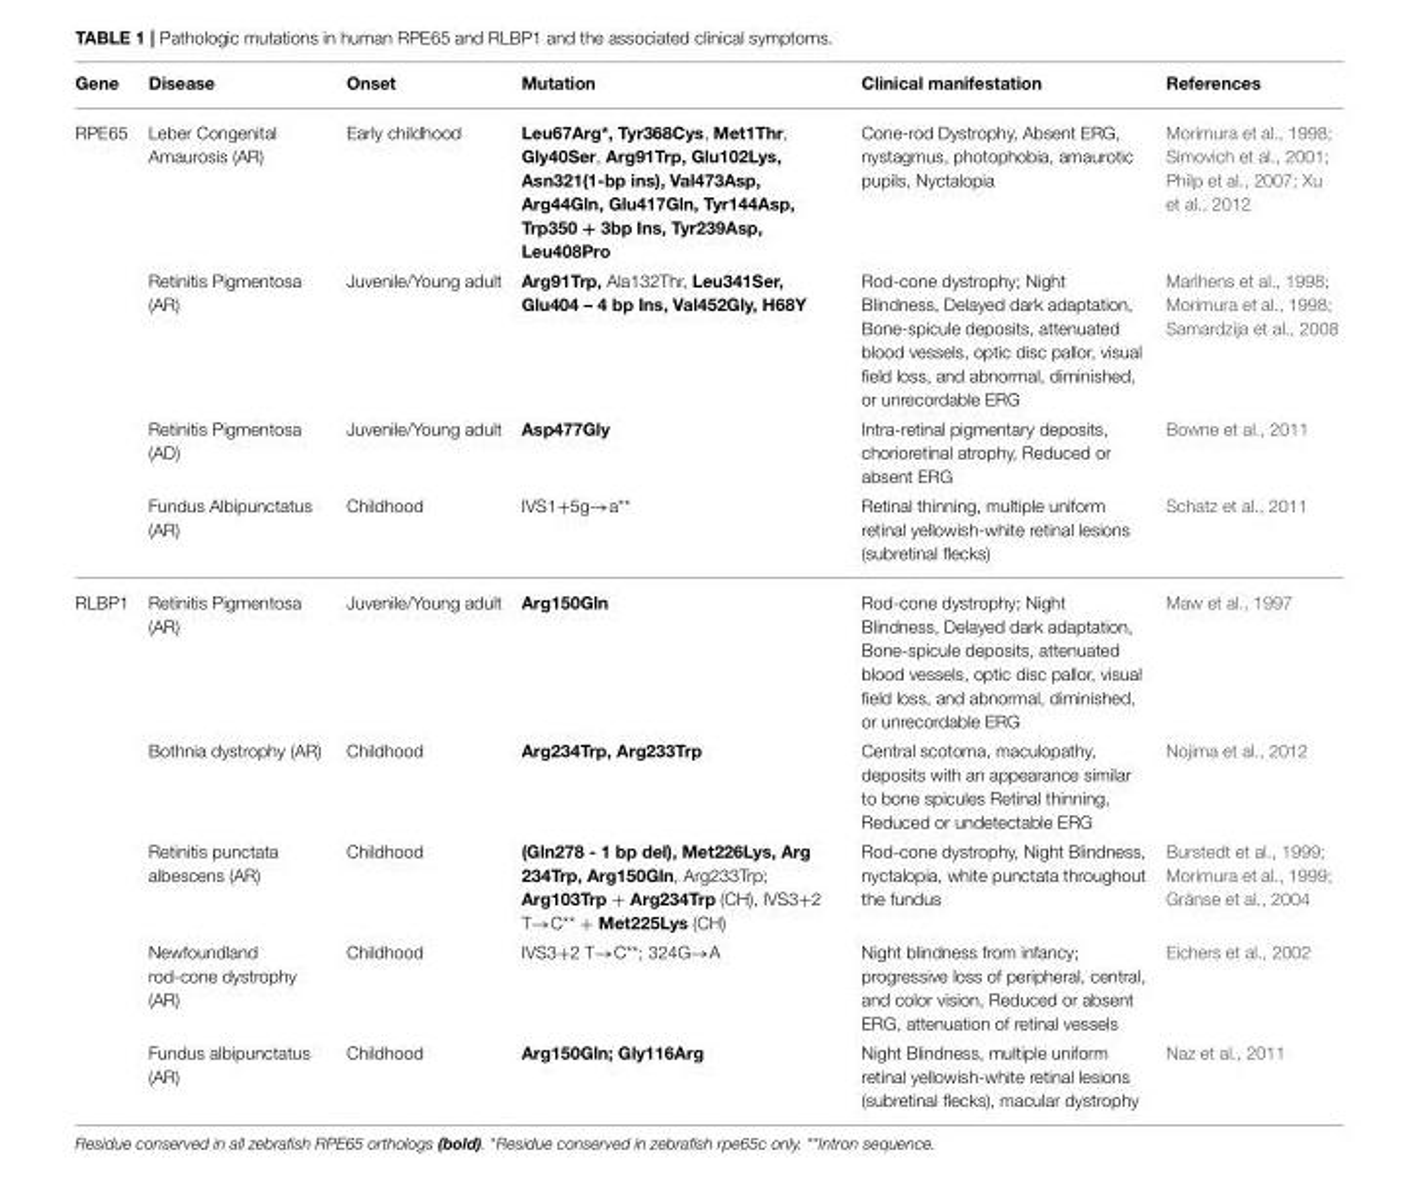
<table><thead><tr><td>Gene</td><td>Disease</td><td>Onset</td><td>Mutation</td><td>Clinical manifestation</td><td>References</td></tr></thead><tbody><tr><td rowspan="4">RPE65</td><td>Leber Congenital Amaurosis (AR)</td><td>Early childhood</td><td>Leu67Arg*, Tyr368Cys, Met1Thr, Gly40Ser, Arg91Trp, Glu102Lys, Asn321(1-bp ins), Val473Asp, Arg44Gln, Glu417Gln, Tyr144Asp, Trp350 + 3bp Ins, Tyr239Asp, Leu408Pro</td><td>Cone-rod Dystrophy, Absent ERG, nystagmus, photophobia, amaurotic pupils, Nyctalopia</td><td>Morimura et al., 1998; Simovich et al., 2001; Philp et al., 2007; Xu et al., 2012</td></tr><tr><td>Retinitis Pigmentosa (AR)</td><td>Juvenile/Young adult</td><td>Arg91Trp, Ala132Thr, Leu341Ser, Glu404 – 4 bp Ins, Val452Gly, H68Y</td><td>Rod-cone dystrophy; Night Blindness, Delayed dark adaptation, Bone-spicule deposits, attenuated blood vessels, optic disc pallor, visual field loss, and abnormal, diminished, or unrecordable ERG</td><td>Marlhens et al., 1998; Morimura et al., 1998; Samardzija et al., 2008</td></tr><tr><td>Retinitis Pigmentosa (AD)</td><td>Juvenile/Young adult</td><td>Asp477Gly</td><td>Intra-retinal pigmentary deposits, chorioretinal atrophy, Reduced or absent ERG</td><td>Bowne et al., 2011</td></tr><tr><td>Fundus Albipunctatus (AR)</td><td>Childhood</td><td>IVS1+5g→a**</td><td>Retinal thinning, multiple uniform retinal yellowish-white retinal lesions (subretinal flecks)</td><td>Schatz et al., 2011</td></tr><tr><td rowspan="5">RLBP1</td><td>Retinitis Pigmentosa (AR)</td><td>Juvenile/Young adult</td><td>Arg150Gln</td><td>Rod-cone dystrophy; Night Blindness, Delayed dark adaptation, Bone-spicule deposits, attenuated blood vessels, optic disc pallor, visual field loss, and abnormal, diminished, or unrecordable ERG</td><td>Maw et al., 1997</td></tr><tr><td>Bothnia dystrophy (AR)</td><td>Childhood</td><td>Arg234Trp, Arg233Trp</td><td>Central scotoma, maculopathy, deposits with an appearance similar to bone spicules Retinal thinning, Reduced or undetectable ERG</td><td>Nojima et al., 2012</td></tr><tr><td>Retinitis punctata albescens (AR)</td><td>Childhood</td><td>(Gln278 - 1 bp del), Met226Lys, Arg 234Trp, Arg150Gln, Arg233Trp; Arg103Trp + Arg234Trp (CH), IVS3+2 T→C** + Met225Lys (CH)</td><td>Rod-cone dystrophy, Night Blindness, nyctalopia, white punctata throughout the fundus</td><td>Burstedt et al., 1999; Morimura et al., 1999; Gränse et al., 2004</td></tr><tr><td>Newfoundland rod-cone dystrophy (AR)</td><td>Childhood</td><td>IVS3+2 T→C**; 324G→A</td><td>Night blindness from infancy; progressive loss of peripheral, central, and color vision, Reduced or absent ERG, attenuation of retinal vessels</td><td>Eichers et al., 2002</td></tr><tr><td>Fundus albipunctatus (AR)</td><td>Childhood</td><td>Arg150Gln; Gly116Arg</td><td>Night Blindness, multiple uniform retinal yellowish-white retinal lesions (subretinal flecks), macular dystrophy</td><td>Naz et al., 2011</td></tr></tbody></table>